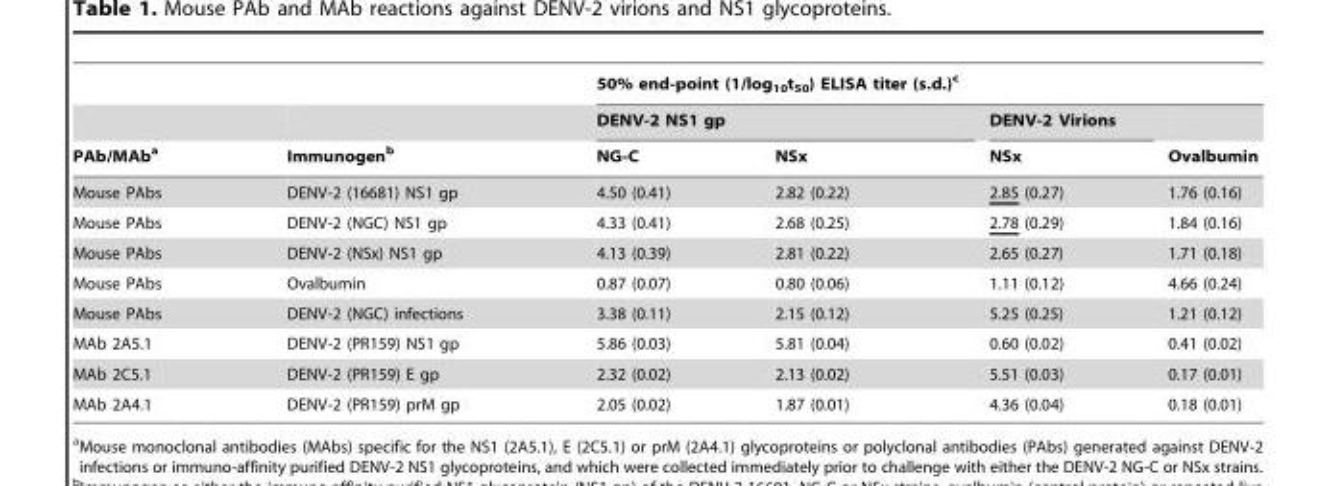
<table><thead><tr><td rowspan="3">PAb/MAb<sup>a</sup></td><td rowspan="3">Immunogen<sup>b</sup></td><td colspan="4">50% end-point (1/log<sub>10</sub>t<sub>50</sub>) ELISA titer (s.d.)<sup>c</sup></td></tr><tr><td colspan="2">DENV-2 NS1 gp</td><td rowspan="2">DENV-2 Virions NSx</td><td rowspan="2">Ovalbumin</td></tr><tr><td>NG-C</td><td>NSx</td></tr></thead><tbody><tr><td>Mouse PAbs</td><td>DENV-2 (16681) NS1 gp</td><td>4.50 (0.41)</td><td>2.82 (0.22)</td><td>2.85 (0.27)</td><td>1.76 (0.16)</td></tr><tr><td>Mouse PAbs</td><td>DENV-2 (NGC) NS1 gp</td><td>4.33 (0.41)</td><td>2.68 (0.25)</td><td>2.78 (0.29)</td><td>1.84 (0.16)</td></tr><tr><td>Mouse PAbs</td><td>DENV-2 (NSx) NS1 gp</td><td>4.13 (0.39)</td><td>2.81 (0.22)</td><td>2.65 (0.27)</td><td>1.71 (0.18)</td></tr><tr><td>Mouse PAbs</td><td>Ovalbumin</td><td>0.87 (0.07)</td><td>0.80 (0.06)</td><td>1.11 (0.12)</td><td>4.66 (0.24)</td></tr><tr><td>Mouse PAbs</td><td>DENV-2 (NGC) infections</td><td>3.38 (0.11)</td><td>2.15 (0.12)</td><td>5.25 (0.25)</td><td>1.21 (0.12)</td></tr><tr><td>MAb 2A5.1</td><td>DENV-2 (PR159) NS1 gp</td><td>5.86 (0.03)</td><td>5.81 (0.04)</td><td>0.60 (0.02)</td><td>0.41 (0.02)</td></tr><tr><td>MAb 2C5.1</td><td>DENV-2 (PR159) E gp</td><td>2.32 (0.02)</td><td>2.13 (0.02)</td><td>5.51 (0.03)</td><td>0.17 (0.01)</td></tr><tr><td>MAb 2A4.1</td><td>DENV-2 (PR159) prM gp</td><td>2.05 (0.02)</td><td>1.87 (0.01)</td><td>4.36 (0.04)</td><td>0.18 (0.01)</td></tr></tbody></table>